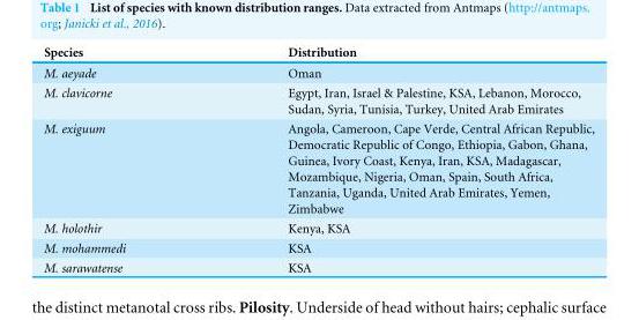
<table><thead><tr><td>Species</td><td>Distribution</td></tr></thead><tbody><tr><td>M. aeyade</td><td>Oman</td></tr><tr><td>M. clavicorne</td><td>Egypt, Iran, Israel &amp; Palestine, KSA, Lebanon, Morocco, Sudan, Syria, Tunisia, Turkey, United Arab Emirates</td></tr><tr><td>M. exiguum</td><td>Angola, Cameroon, Cape Verde, Central African Republic, Democratic Republic of Congo, Ethiopia, Gabon, Ghana, Guinea, Ivory Coast, Kenya, Iran, KSA, Madagascar, Mozambique, Nigeria, Oman, Spain, South Africa, Tanzania, Uganda, United Arab Emirates, Yemen, Zimbabwe</td></tr><tr><td>M. holothir</td><td>Kenya, KSA</td></tr><tr><td>M. mohammedi</td><td>KSA</td></tr><tr><td>M. sarawatense</td><td>KSA</td></tr></tbody></table>